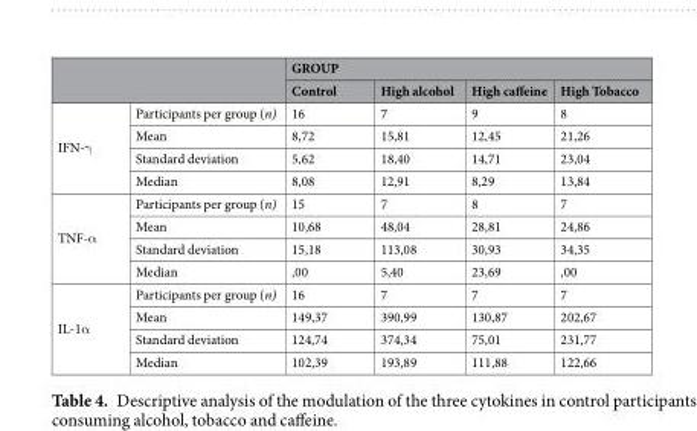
<table><thead><tr><td rowspan="2"></td><td rowspan="2"></td><td colspan="4">GROUP</td></tr><tr><td>Control</td><td>High alcohol</td><td>High caffeine</td><td>High Tobacco</td></tr></thead><tbody><tr><td rowspan="4">IFN-γ</td><td>Participants per group (n)</td><td>16</td><td>7</td><td>9</td><td>8</td></tr><tr><td>Mean</td><td>8,72</td><td>15,81</td><td>12,45</td><td>21,26</td></tr><tr><td>Standard deviation</td><td>5,62</td><td>18,40</td><td>14,71</td><td>23,04</td></tr><tr><td>Median</td><td>8,08</td><td>12,91</td><td>8,29</td><td>13,84</td></tr><tr><td rowspan="4">TNF-α</td><td>Participants per group (n)</td><td>15</td><td>7</td><td>8</td><td>7</td></tr><tr><td>Mean</td><td>10,68</td><td>48,04</td><td>28,81</td><td>24,86</td></tr><tr><td>Standard deviation</td><td>15,18</td><td>113,08</td><td>30,93</td><td>34,35</td></tr><tr><td>Median</td><td>,00</td><td>5,40</td><td>23,69</td><td>,00</td></tr><tr><td rowspan="4">IL-1α</td><td>Participants per group (n)</td><td>16</td><td>7</td><td>7</td><td>7</td></tr><tr><td>Mean</td><td>149,37</td><td>390,99</td><td>130,87</td><td>202,67</td></tr><tr><td>Standard deviation</td><td>124,74</td><td>374,34</td><td>75,01</td><td>231,77</td></tr><tr><td>Median</td><td>102,39</td><td>193,89</td><td>111,88</td><td>122,66</td></tr></tbody></table>